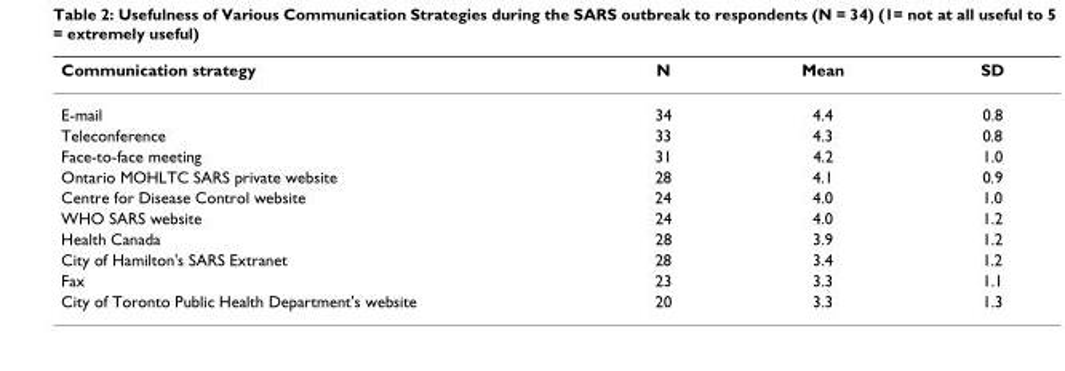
<table><thead><tr><td>Communication strategy</td><td>N</td><td>Mean</td><td>SD</td></tr></thead><tbody><tr><td>E-mail</td><td>34</td><td>4.4</td><td>0.8</td></tr><tr><td>Teleconference</td><td>33</td><td>4.3</td><td>0.8</td></tr><tr><td>Face-to-face meeting</td><td>31</td><td>4.2</td><td>1.0</td></tr><tr><td>Ontario MOHLTC SARS private website</td><td>28</td><td>4.1</td><td>0.9</td></tr><tr><td>Centre for Disease Control website</td><td>24</td><td>4.0</td><td>1.0</td></tr><tr><td>WHO SARS website</td><td>24</td><td>4.0</td><td>1.2</td></tr><tr><td>Health Canada</td><td>28</td><td>3.9</td><td>1.2</td></tr><tr><td>City of Hamilton&#x27;s SARS Extranet</td><td>28</td><td>3.4</td><td>1.2</td></tr><tr><td>Fax</td><td>23</td><td>3.3</td><td>1.1</td></tr><tr><td>City of Toronto Public Health Department&#x27;s website</td><td>20</td><td>3.3</td><td>1.3</td></tr></tbody></table>